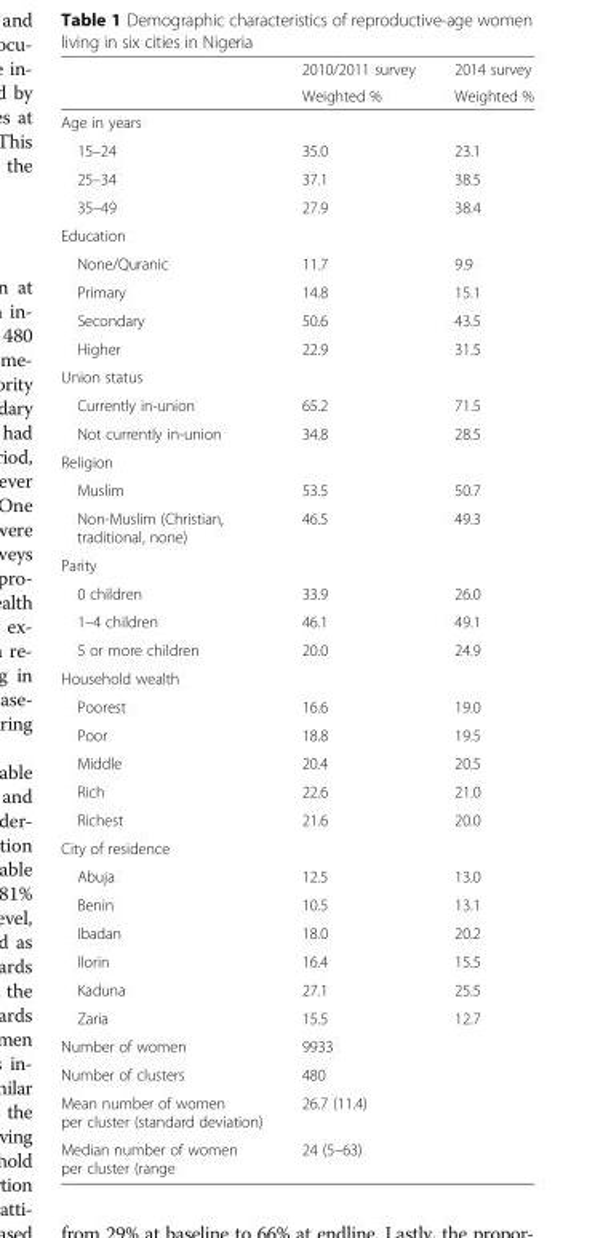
<table><thead><tr><td rowspan="2"></td><td rowspan="2">2010/2011 survey Weighted %</td><td rowspan="2">2014 survey Weighted %</td></tr><tr></tr></thead><tbody><tr><td colspan="3">Age in years</td></tr><tr><td>15–24</td><td>35.0</td><td>23.1</td></tr><tr><td>25–34</td><td>37.1</td><td>38.5</td></tr><tr><td>35–49</td><td>27.9</td><td>38.4</td></tr><tr><td colspan="3">Education</td></tr><tr><td>None/Quranic</td><td>11.7</td><td>9.9</td></tr><tr><td>Primary</td><td>14.8</td><td>15.1</td></tr><tr><td>Secondary</td><td>50.6</td><td>43.5</td></tr><tr><td>Higher</td><td>22.9</td><td>31.5</td></tr><tr><td colspan="3">Union status</td></tr><tr><td>Currently in-union</td><td>65.2</td><td>71.5</td></tr><tr><td>Not currently in-union</td><td>34.8</td><td>28.5</td></tr><tr><td colspan="3">Religion</td></tr><tr><td>Muslim</td><td>53.5</td><td>50.7</td></tr><tr><td>Non-Muslim (Christian, traditional, none)</td><td>46.5</td><td>49.3</td></tr><tr><td colspan="3">Parity</td></tr><tr><td>0 children</td><td>33.9</td><td>26.0</td></tr><tr><td>1–4 children</td><td>46.1</td><td>49.1</td></tr><tr><td>5 or more children</td><td>20.0</td><td>24.9</td></tr><tr><td colspan="3">Household wealth</td></tr><tr><td>Poorest</td><td>16.6</td><td>19.0</td></tr><tr><td>Poor</td><td>18.8</td><td>19.5</td></tr><tr><td>Middle</td><td>20.4</td><td>20.5</td></tr><tr><td>Rich</td><td>22.6</td><td>21.0</td></tr><tr><td>Richest</td><td>21.6</td><td>20.0</td></tr><tr><td colspan="3">City of residence</td></tr><tr><td>Abuja</td><td>12.5</td><td>13.0</td></tr><tr><td>Benin</td><td>10.5</td><td>13.1</td></tr><tr><td>Ibadan</td><td>18.0</td><td>20.2</td></tr><tr><td>Ilorin</td><td>16.4</td><td>15.5</td></tr><tr><td>Kaduna</td><td>27.1</td><td>25.5</td></tr><tr><td>Zaria</td><td>15.5</td><td>12.7</td></tr><tr><td>Number of women</td><td colspan="2">9933</td></tr><tr><td>Number of clusters</td><td colspan="2">480</td></tr><tr><td>Mean number of women per cluster (standard deviation)</td><td colspan="2">26.7 (11.4)</td></tr><tr><td>Median number of women per cluster (range</td><td colspan="2">24 (5–63)</td></tr></tbody></table>